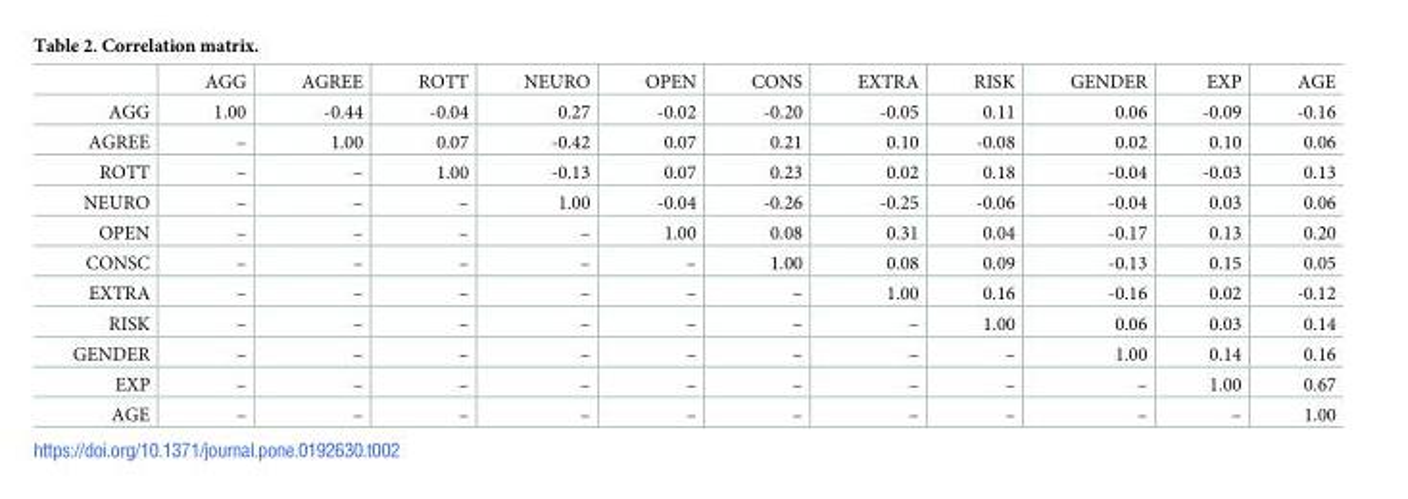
<table><thead><tr><td></td><td>AGG</td><td>AGREE</td><td>ROTT</td><td>NEURO</td><td>OPEN</td><td>CONS</td><td>EXTRA</td><td>RISK</td><td>GENDER</td><td>EXP</td><td>AGE</td></tr></thead><tbody><tr><td>AGG</td><td>1.00</td><td>-0.44</td><td>-0.04</td><td>0.27</td><td>-0.02</td><td>-0.20</td><td>-0.05</td><td>0.11</td><td>0.06</td><td>-0.09</td><td>-0.16</td></tr><tr><td>AGREE</td><td>–</td><td>1.00</td><td>0.07</td><td>-0.42</td><td>0.07</td><td>0.21</td><td>0.10</td><td>-0.08</td><td>0.02</td><td>0.10</td><td>0.06</td></tr><tr><td>ROTT</td><td>–</td><td>–</td><td>1.00</td><td>-0.13</td><td>0.07</td><td>0.23</td><td>0.02</td><td>0.18</td><td>-0.04</td><td>-0.03</td><td>0.13</td></tr><tr><td>NEURO</td><td>–</td><td>–</td><td>–</td><td>1.00</td><td>-0.04</td><td>-0.26</td><td>-0.25</td><td>-0.06</td><td>-0.04</td><td>0.03</td><td>0.06</td></tr><tr><td>OPEN</td><td>–</td><td>–</td><td>–</td><td>–</td><td>1.00</td><td>0.08</td><td>0.31</td><td>0.04</td><td>-0.17</td><td>0.13</td><td>0.20</td></tr><tr><td>CONSC</td><td>–</td><td>–</td><td>–</td><td>–</td><td>–</td><td>1.00</td><td>0.08</td><td>0.09</td><td>-0.13</td><td>0.15</td><td>0.05</td></tr><tr><td>EXTRA</td><td>–</td><td>–</td><td>–</td><td>–</td><td>–</td><td>–</td><td>1.00</td><td>0.16</td><td>-0.16</td><td>0.02</td><td>-0.12</td></tr><tr><td>RISK</td><td>–</td><td>–</td><td>–</td><td>–</td><td>–</td><td>–</td><td>–</td><td>1.00</td><td>0.06</td><td>0.03</td><td>0.14</td></tr><tr><td>GENDER</td><td>–</td><td>–</td><td>–</td><td>–</td><td>–</td><td>–</td><td>–</td><td>–</td><td>1.00</td><td>0.14</td><td>0.16</td></tr><tr><td>EXP</td><td>–</td><td>–</td><td>–</td><td>–</td><td>–</td><td>–</td><td>–</td><td>–</td><td>–</td><td>1.00</td><td>0.67</td></tr><tr><td>AGE</td><td>–</td><td>–</td><td>–</td><td>–</td><td>–</td><td>–</td><td>–</td><td>–</td><td>–</td><td>–</td><td>1.00</td></tr></tbody></table>